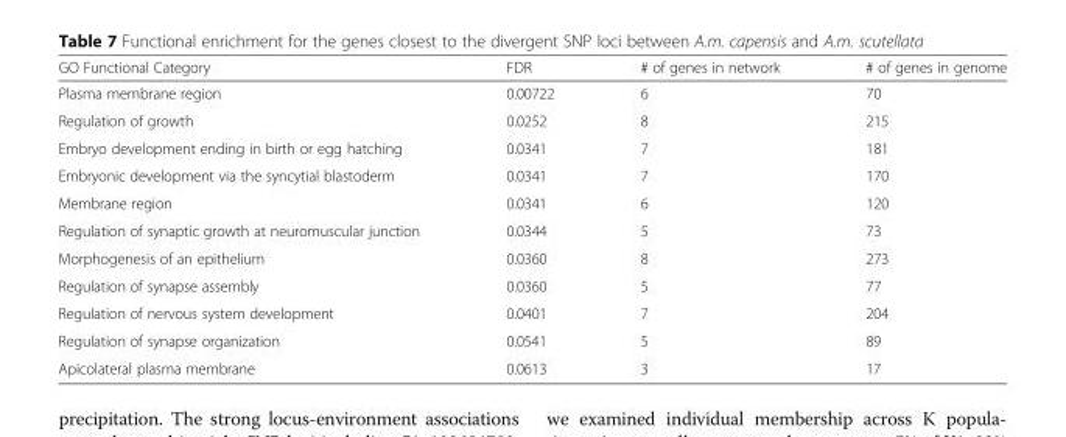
<table><thead><tr><td>GO Functional Category</td><td>FDR</td><td># of genes in network</td><td># of genes in genome</td></tr></thead><tbody><tr><td>Plasma membrane region</td><td>0.00722</td><td>6</td><td>70</td></tr><tr><td>Regulation of growth</td><td>0.0252</td><td>8</td><td>215</td></tr><tr><td>Embryo development ending in birth or egg hatching</td><td>0.0341</td><td>7</td><td>181</td></tr><tr><td>Embryonic development via the syncytial blastoderm</td><td>0.0341</td><td>7</td><td>170</td></tr><tr><td>Membrane region</td><td>0.0341</td><td>6</td><td>120</td></tr><tr><td>Regulation of synaptic growth at neuromuscular junction</td><td>0.0344</td><td>5</td><td>73</td></tr><tr><td>Morphogenesis of an epithelium</td><td>0.0360</td><td>8</td><td>273</td></tr><tr><td>Regulation of synapse assembly</td><td>0.0360</td><td>5</td><td>77</td></tr><tr><td>Regulation of nervous system development</td><td>0.0401</td><td>7</td><td>204</td></tr><tr><td>Regulation of synapse organization</td><td>0.0541</td><td>5</td><td>89</td></tr><tr><td>Apicolateral plasma membrane</td><td>0.0613</td><td>3</td><td>17</td></tr></tbody></table>